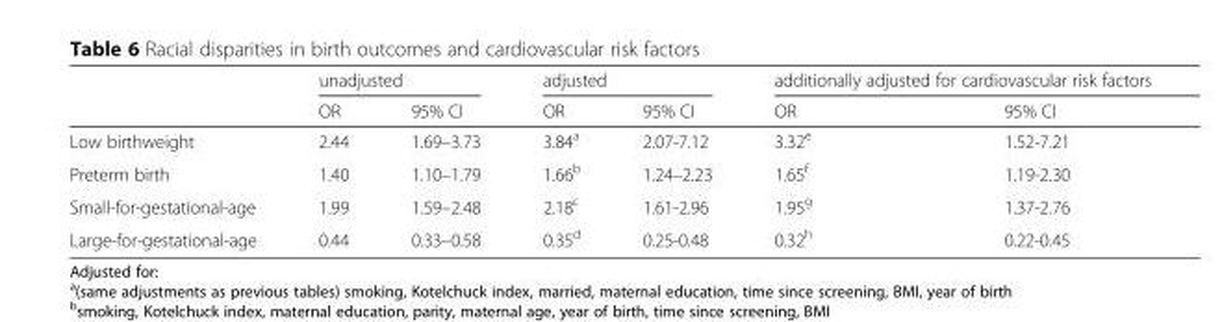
<table><thead><tr><td rowspan="2"></td><td colspan="2">unadjusted</td><td colspan="2">adjusted</td><td colspan="2">additionally adjusted for cardiovascular risk factors</td></tr><tr><td>OR</td><td>95% CI</td><td>OR</td><td>95% CI</td><td>OR</td><td>95% CI</td></tr></thead><tbody><tr><td>Low birthweight</td><td>2.44</td><td>1.69–3.73</td><td>3.84<sup>a</sup></td><td>2.07-7.12</td><td>3.32<sup>e</sup></td><td>1.52-7.21</td></tr><tr><td>Preterm birth</td><td>1.40</td><td>1.10–1.79</td><td>1.66<sup>b</sup></td><td>1.24–2.23</td><td>1.65<sup>f</sup></td><td>1.19-2.30</td></tr><tr><td>Small-for-gestational-age</td><td>1.99</td><td>1.59–2.48</td><td>2.18<sup>c</sup></td><td>1.61-2.96</td><td>1.95<sup>g</sup></td><td>1.37-2.76</td></tr><tr><td>Large-for-gestational-age</td><td>0.44</td><td>0.33–0.58</td><td>0.35<sup>d</sup></td><td>0.25-0.48</td><td>0.32<sup>h</sup></td><td>0.22-0.45</td></tr></tbody></table>